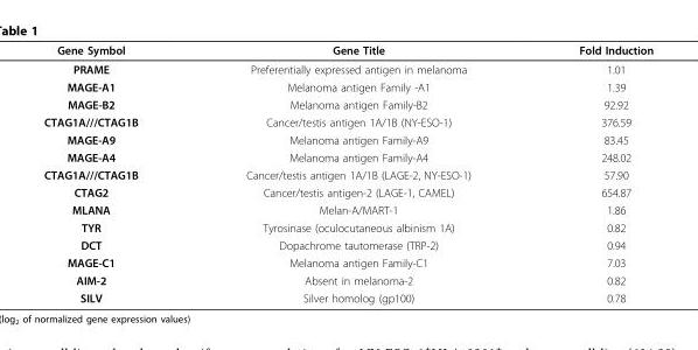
<table><thead><tr><td>Gene Symbol</td><td>Gene Title</td><td>Fold Induction</td></tr></thead><tbody><tr><td>PRAME</td><td>Preferentially expressed antigen in melanoma</td><td>1.01</td></tr><tr><td>MAGE-A1</td><td>Melanoma antigen Family -A1</td><td>1.39</td></tr><tr><td>MAGE-B2</td><td>Melanoma antigen Family-B2</td><td>92.92</td></tr><tr><td>CTAG1A///CTAG1B</td><td>Cancer/testis antigen 1A/1B (NY-ESO-1)</td><td>376.59</td></tr><tr><td>MAGE-A9</td><td>Melanoma antigen Family-A9</td><td>83.45</td></tr><tr><td>MAGE-A4</td><td>Melanoma antigen Family-A4</td><td>248.02</td></tr><tr><td>CTAG1A///CTAG1B</td><td>Cancer/testis antigen 1A/1B (LAGE-2, NY-ESO-1)</td><td>57.90</td></tr><tr><td>CTAG2</td><td>Cancer/testis antigen-2 (LAGE-1, CAMEL)</td><td>654.87</td></tr><tr><td>MLANA</td><td>Melan-A/MART-1</td><td>1.86</td></tr><tr><td>TYR</td><td>Tyrosinase (oculocutaneous albinism 1A)</td><td>0.82</td></tr><tr><td>DCT</td><td>Dopachrome tautomerase (TRP-2)</td><td>0.94</td></tr><tr><td>MAGE-C1</td><td>Melanoma antigen Family-C1</td><td>7.03</td></tr><tr><td>AIM-2</td><td>Absent in melanoma-2</td><td>0.82</td></tr><tr><td>SILV</td><td>Silver homolog (gp100)</td><td>0.78</td></tr></tbody></table>